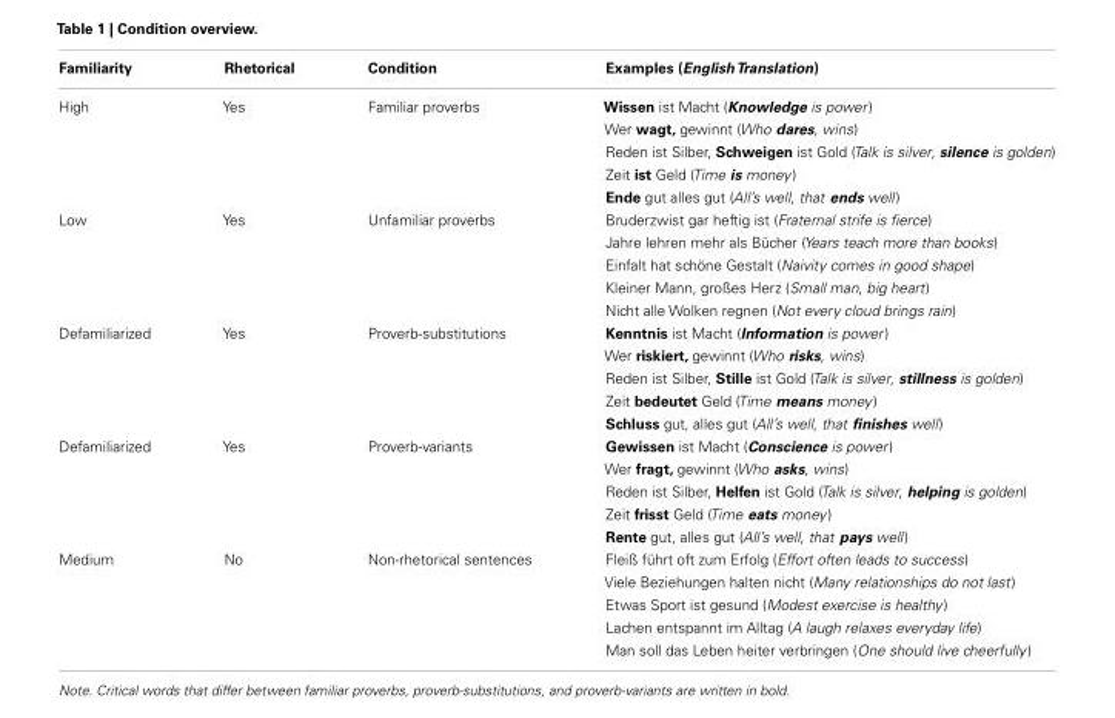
<table><thead><tr><td>Familiarity</td><td>Rhetorical</td><td>Condition</td><td>Examples (EnglishTranslation)</td></tr></thead><tbody><tr><td rowspan="5">High</td><td>Yes</td><td>Familiar proverbs</td><td>Wissen ist Macht (Knowledge is power)</td></tr><tr><td></td><td></td><td>Wer wagt, gewinnt (Who dares, wins)</td></tr><tr><td></td><td></td><td>Reden ist Silber, Schweigen ist Gold (Talk is silver, silence is golden)</td></tr><tr><td></td><td></td><td>Zeit ist Geld (Time is money)</td></tr><tr><td></td><td></td><td>Ende gut alles gut (All’s well, that ends well)</td></tr><tr><td rowspan="5">Low</td><td>Yes</td><td>Unfamiliar proverbs</td><td>Bruderzwist gar heftig ist (Fraternal strife is fierce)</td></tr><tr><td></td><td></td><td>Jahre lehren mehr als Bücher (Years teach more than books)</td></tr><tr><td></td><td></td><td>Einfalt hat schöne Gestalt (Naivity comes in good shape)</td></tr><tr><td></td><td></td><td>Kleiner Mann, großes Herz (Small man, big heart)</td></tr><tr><td></td><td></td><td>Nicht alle Wolken regnen (Not every cloud brings rain)</td></tr><tr><td rowspan="5">Defamiliarized</td><td>Yes</td><td>Proverb-substitutions</td><td>Kenntnis ist Macht (Information is power)</td></tr><tr><td></td><td></td><td>Wer riskiert, gewinnt (Who risks, wins)</td></tr><tr><td></td><td></td><td>Reden ist Silber, Stille ist Gold (Talk is silver, stillness is golden)</td></tr><tr><td></td><td></td><td>Zeit bedeutet Geld (Time means money)</td></tr><tr><td></td><td></td><td>Schluss gut, alles gut (All’s well, that finishes well)</td></tr><tr><td rowspan="5">Defamiliarized</td><td>Yes</td><td>Proverb-variants</td><td>Gewissen ist Macht (Conscience is power)</td></tr><tr><td></td><td></td><td>Wer fragt, gewinnt (Who asks, wins)</td></tr><tr><td></td><td></td><td>Reden ist Silber, Helfen ist Gold (Talk is silver, helping is golden)</td></tr><tr><td></td><td></td><td>Zeit frisst Geld (Time eats money)</td></tr><tr><td></td><td></td><td>Rente gut, alles gut (All’s well, that pays well)</td></tr><tr><td rowspan="5">Medium</td><td>No</td><td>Non-rhetorical sentences</td><td>Fleiß führt oft zum Erfolg (Effort often leads to success)</td></tr><tr><td></td><td></td><td>Viele Beziehungen halten nicht (Many relationships do not last)</td></tr><tr><td></td><td></td><td>Etwas Sport ist gesund (Modest exercise is healthy)</td></tr><tr><td></td><td></td><td>Lachen entspannt im Alltag (A laugh relaxes everyday life)</td></tr><tr><td></td><td></td><td>Man soll das Leben heiter verbringen (One should live cheerfully)</td></tr></tbody></table>